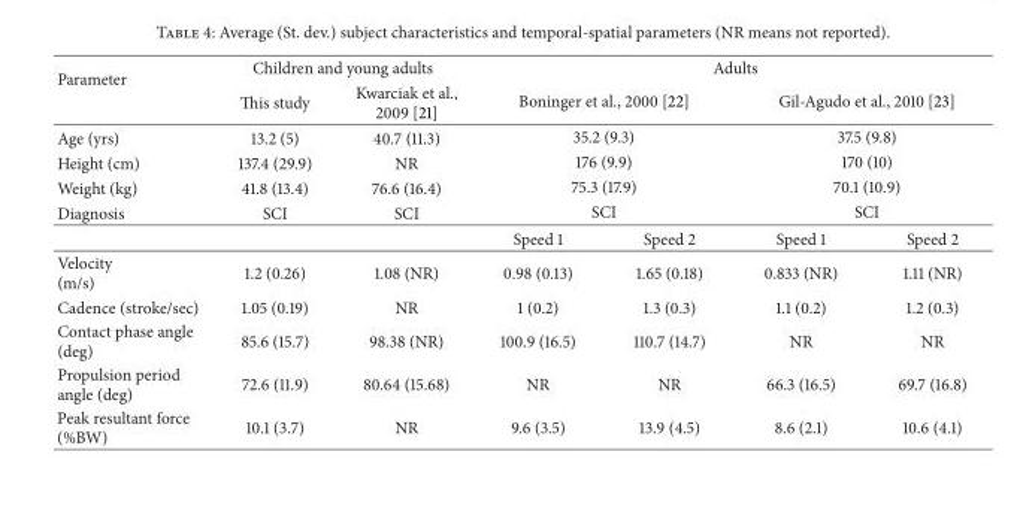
<table><thead><tr><td rowspan="2">Parameter</td><td colspan="2">Children and young adults</td><td colspan="4">Adults</td></tr><tr><td>This study</td><td>Kwarciak et al., 2009 [21]</td><td colspan="2">Boninger et al., 2000 [22]</td><td colspan="2">Gil-Agudo et al., 2010 [23]</td></tr></thead><tbody><tr><td>Age (yrs)</td><td>13.2 (5)</td><td>40.7 (11.3)</td><td colspan="2">35.2 (9.3)</td><td colspan="2">37.5 (9.8)</td></tr><tr><td>Height (cm)</td><td>137.4 (29.9)</td><td>NR</td><td colspan="2">176 (9.9)</td><td colspan="2">170 (10)</td></tr><tr><td>Weight (kg)</td><td>41.8 (13.4)</td><td>76.6 (16.4)</td><td colspan="2">75.3 (17.9)</td><td colspan="2">70.1 (10.9)</td></tr><tr><td rowspan="2">Diagnosis</td><td>SCI</td><td>SCI</td><td colspan="2">SCI</td><td colspan="2">SCI</td></tr><tr><td></td><td></td><td>Speed 1</td><td>Speed 2</td><td>Speed 1</td><td>Speed 2</td></tr><tr><td>Velocity (m/s)</td><td>1.2 (0.26)</td><td>1.08 (NR)</td><td>0.98 (0.13)</td><td>1.65 (0.18)</td><td>0.833 (NR)</td><td>1.11 (NR)</td></tr><tr><td>Cadence (stroke/sec)</td><td>1.05 (0.19)</td><td>NR</td><td>1 (0.2)</td><td>1.3 (0.3)</td><td>1.1 (0.2)</td><td>1.2 (0.3)</td></tr><tr><td>Contact phase angle (deg)</td><td>85.6 (15.7)</td><td>98.38 (NR)</td><td>100.9 (16.5)</td><td>110.7 (14.7)</td><td>NR</td><td>NR</td></tr><tr><td>Propulsion period angle (deg)</td><td>72.6 (11.9)</td><td>80.64 (15.68)</td><td>NR</td><td>NR</td><td>66.3 (16.5)</td><td>69.7 (16.8)</td></tr><tr><td>Peak resultant force (%BW)</td><td>10.1 (3.7)</td><td>NR</td><td>9.6 (3.5)</td><td>13.9 (4.5)</td><td>8.6 (2.1)</td><td>10.6 (4.1)</td></tr></tbody></table>